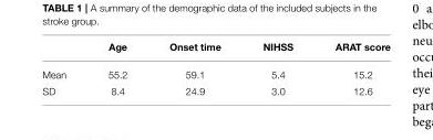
<table><thead><tr><td></td><td>Age</td><td>Onset time</td><td>NIHSS</td><td>ARAT score</td></tr></thead><tbody><tr><td>Mean</td><td>55.2</td><td>59.1</td><td>5.4</td><td>15.2</td></tr><tr><td>SD</td><td>8.4</td><td>24.9</td><td>3.0</td><td>12.6</td></tr></tbody></table>